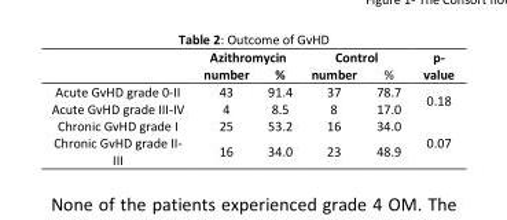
<table><thead><tr><td rowspan="2"></td><td colspan="2">Azithromycin</td><td colspan="2">Control</td><td rowspan="2">p- value</td></tr><tr><td>number</td><td>%</td><td>number</td><td>%</td></tr></thead><tbody><tr><td>Acute GvHD grade 0-II</td><td>43</td><td>91.4</td><td>37</td><td>78.7</td><td rowspan="2">0.18</td></tr><tr><td>Acute GvHD grade III-IV</td><td>4</td><td>8.5</td><td>8</td><td>17.0</td></tr><tr><td>Chronic GvHD grade I</td><td>25</td><td>53.2</td><td>16</td><td>34.0</td><td rowspan="2">0.07</td></tr><tr><td>Chronic GvHD grade II- III</td><td>16</td><td>34.0</td><td>23</td><td>48.9</td></tr></tbody></table>